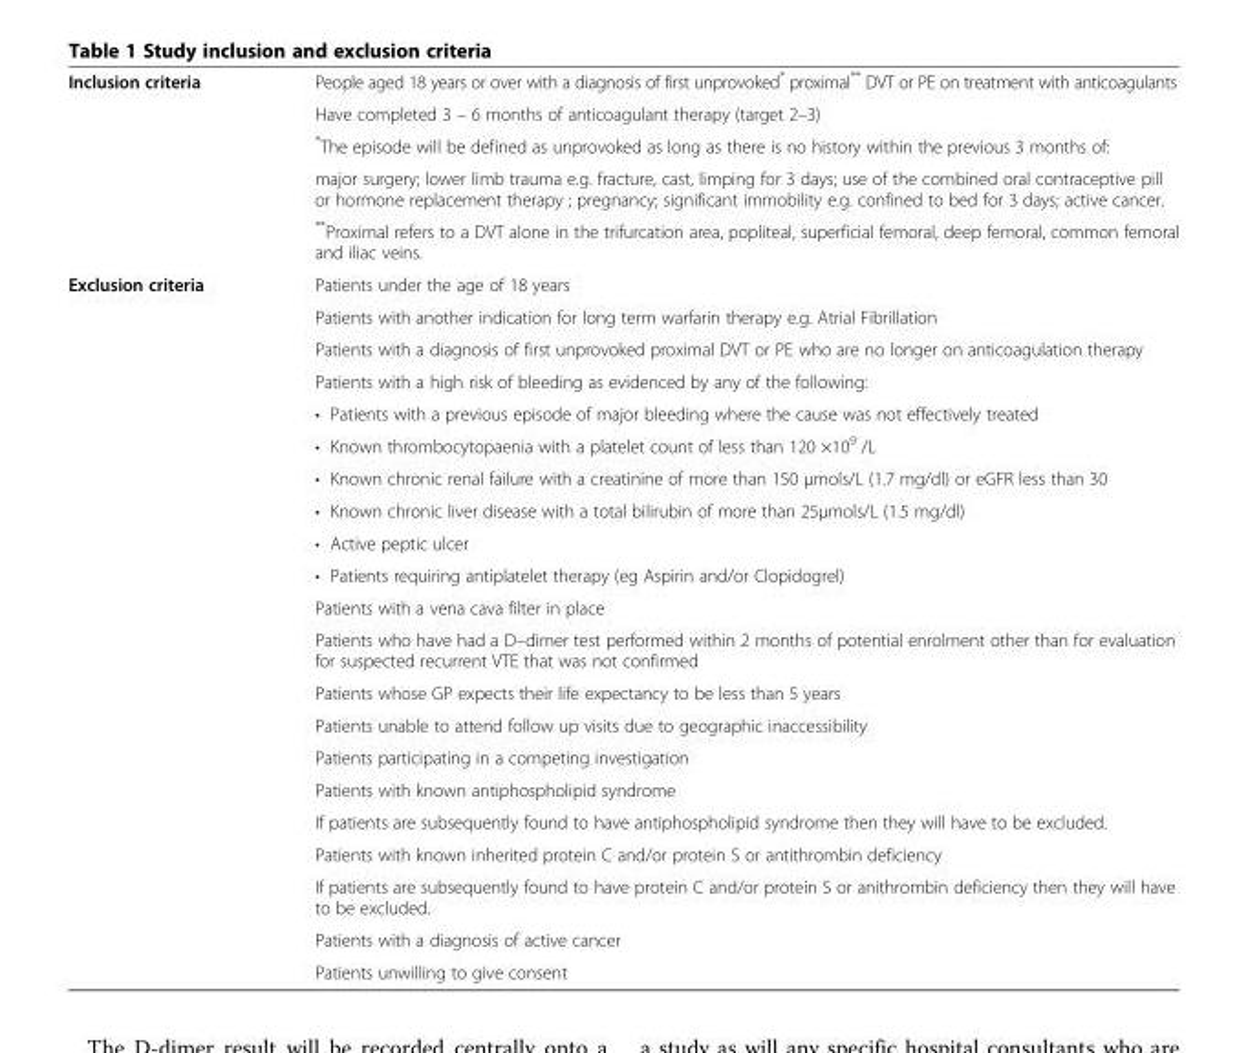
<table><tbody><tr><td rowspan="5">Inclusion criteria</td><td>People aged 18 years or over with a diagnosis of first unprovoked* proximal** DVT or PE on treatment with anticoagulants</td></tr><tr><td>Have completed 3 – 6 months of anticoagulant therapy (target 2–3)</td></tr><tr><td>*The episode will be defined as unprovoked as long as there is no history within the previous 3 months of:</td></tr><tr><td>major surgery; lower limb trauma e.g. fracture, cast, limping for 3 days; use of the combined oral contraceptive pill or hormone replacement therapy ; pregnancy; significant immobility e.g. confined to bed for 3 days; active cancer.</td></tr><tr><td>**Proximal refers to a DVT alone in the trifurcation area, popliteal, superficial femoral, deep femoral, common femoral and iliac veins.</td></tr><tr><td rowspan="21">Exclusion criteria</td><td>Patients under the age of 18 years</td></tr><tr><td>Patients with another indication for long term warfarin therapy e.g. Atrial Fibrillation</td></tr><tr><td>Patients with a diagnosis of first unprovoked proximal DVT or PE who are no longer on anticoagulation therapy</td></tr><tr><td>Patients with a high risk of bleeding as evidenced by any of the following:</td></tr><tr><td>• Patients with a previous episode of major bleeding where the cause was not effectively treated</td></tr><tr><td>• Known thrombocytopaenia with a platelet count of less than 120 ×10<sup>9</sup> /L</td></tr><tr><td>• Known chronic renal failure with a creatinine of more than 150 μmols/L (1.7 mg/dl) or eGFR less than 30</td></tr><tr><td>• Known chronic liver disease with a total bilirubin of more than 25μmols/L (1.5 mg/dl)</td></tr><tr><td>• Active peptic ulcer</td></tr><tr><td>• Patients requiring antiplatelet therapy (eg Aspirin and/or Clopidogrel)</td></tr><tr><td>Patients with a vena cava filter in place</td></tr><tr><td>Patients who have had a D–dimer test performed within 2 months of potential enrolment other than for evaluation for suspected recurrent VTE that was not confirmed</td></tr><tr><td>Patients whose GP expects their life expectancy to be less than 5 years</td></tr><tr><td>Patients unable to attend follow up visits due to geographic inaccessibility</td></tr><tr><td>Patients participating in a competing investigation</td></tr><tr><td>Patients with known antiphospholipid syndrome</td></tr><tr><td>If patients are subsequently found to have antiphospholipid syndrome then they will have to be excluded.</td></tr><tr><td>Patients with known inherited protein C and/or protein S or antithrombin deficiency</td></tr><tr><td>If patients are subsequently found to have protein C and/or protein S or anithrombin deficiency then they will have to be excluded.</td></tr><tr><td>Patients with a diagnosis of active cancer</td></tr><tr><td>Patients unwilling to give consent</td></tr></tbody></table>